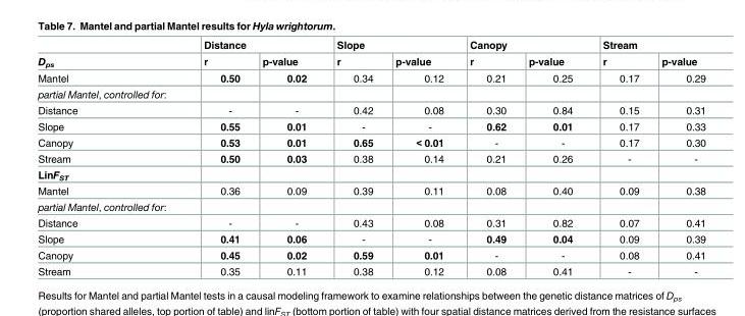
<table><thead><tr><td rowspan="2">D<sub>ps</sub></td><td colspan="2">Distance</td><td colspan="2">Slope</td><td colspan="2">Canopy</td><td colspan="2">Stream</td></tr><tr><td>r</td><td>p-value</td><td>r</td><td>p-value</td><td>r</td><td>p-value</td><td>r</td><td>p-value</td></tr></thead><tbody><tr><td>Mantel</td><td>0.50</td><td>0.02</td><td>0.34</td><td>0.12</td><td>0.21</td><td>0.25</td><td>0.17</td><td>0.29</td></tr><tr><td colspan="9">partial Mantel, controlled for:</td></tr><tr><td>Distance</td><td>-</td><td>-</td><td>0.42</td><td>0.08</td><td>0.30</td><td>0.84</td><td>0.15</td><td>0.31</td></tr><tr><td>Slope</td><td>0.55</td><td>0.01</td><td>-</td><td>-</td><td>0.62</td><td>0.01</td><td>0.17</td><td>0.33</td></tr><tr><td>Canopy</td><td>0.53</td><td>0.01</td><td>0.65</td><td>&lt; 0.01</td><td>-</td><td>-</td><td>0.17</td><td>0.30</td></tr><tr><td>Stream</td><td>0.50</td><td>0.03</td><td>0.38</td><td>0.14</td><td>0.21</td><td>0.26</td><td>-</td><td>-</td></tr><tr><td colspan="9">LinF<sub>ST</sub></td></tr><tr><td>Mantel</td><td>0.36</td><td>0.09</td><td>0.39</td><td>0.11</td><td>0.08</td><td>0.40</td><td>0.09</td><td>0.38</td></tr><tr><td colspan="9">partial Mantel, controlled for:</td></tr><tr><td>Distance</td><td>-</td><td>-</td><td>0.43</td><td>0.08</td><td>0.31</td><td>0.82</td><td>0.07</td><td>0.41</td></tr><tr><td>Slope</td><td>0.41</td><td>0.06</td><td>-</td><td>-</td><td>0.49</td><td>0.04</td><td>0.09</td><td>0.39</td></tr><tr><td>Canopy</td><td>0.45</td><td>0.02</td><td>0.59</td><td>0.01</td><td>-</td><td>-</td><td>0.08</td><td>0.41</td></tr><tr><td>Stream</td><td>0.35</td><td>0.11</td><td>0.38</td><td>0.12</td><td>0.08</td><td>0.41</td><td>-</td><td>-</td></tr></tbody></table>